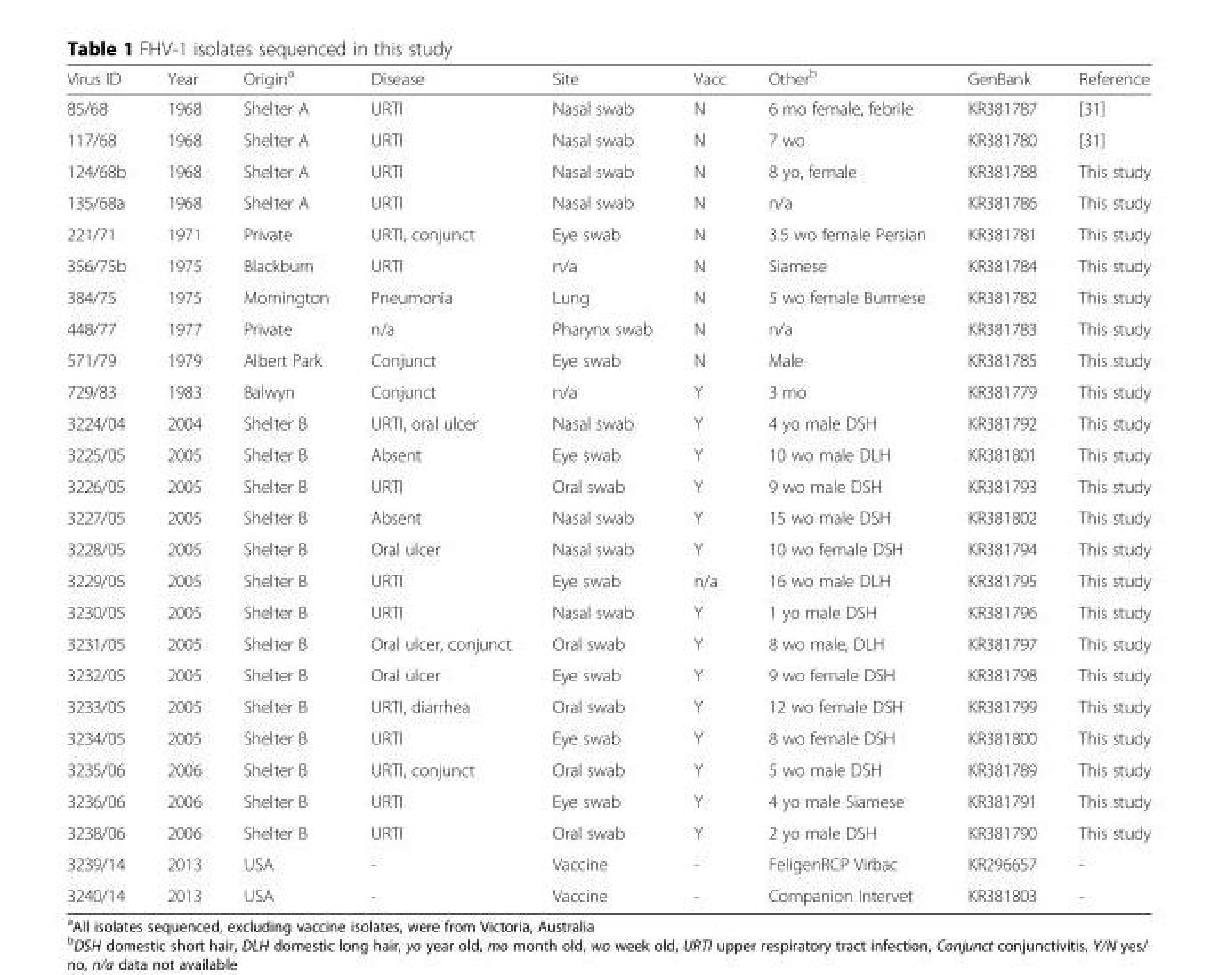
<table><thead><tr><td>Virus ID</td><td>Year</td><td>Origin<sup>a</sup></td><td>Disease</td><td>Site</td><td>Vacc</td><td>Other<sup>b</sup></td><td>GenBank</td><td>Reference</td></tr></thead><tbody><tr><td>85/68</td><td>1968</td><td>Shelter A</td><td>URTI</td><td>Nasal swab</td><td>N</td><td>6 mo female, febrile</td><td>KR381787</td><td>[31]</td></tr><tr><td>117/68</td><td>1968</td><td>Shelter A</td><td>URTI</td><td>Nasal swab</td><td>N</td><td>7 wo</td><td>KR381780</td><td>[31]</td></tr><tr><td>124/68b</td><td>1968</td><td>Shelter A</td><td>URTI</td><td>Nasal swab</td><td>N</td><td>8 yo, female</td><td>KR381788</td><td>This study</td></tr><tr><td>135/68a</td><td>1968</td><td>Shelter A</td><td>URTI</td><td>Nasal swab</td><td>N</td><td>n/a</td><td>KR381786</td><td>This study</td></tr><tr><td>221/71</td><td>1971</td><td>Private</td><td>URTI, conjunct</td><td>Eye swab</td><td>N</td><td>3.5 wo female Persian</td><td>KR381781</td><td>This study</td></tr><tr><td>356/75b</td><td>1975</td><td>Blackburn</td><td>URTI</td><td>n/a</td><td>N</td><td>Siamese</td><td>KR381784</td><td>This study</td></tr><tr><td>384/75</td><td>1975</td><td>Mornington</td><td>Pneumonia</td><td>Lung</td><td>N</td><td>5 wo female Burmese</td><td>KR381782</td><td>This study</td></tr><tr><td>448/77</td><td>1977</td><td>Private</td><td>n/a</td><td>Pharynx swab</td><td>N</td><td>n/a</td><td>KR381783</td><td>This study</td></tr><tr><td>571/79</td><td>1979</td><td>Albert Park</td><td>Conjunct</td><td>Eye swab</td><td>N</td><td>Male</td><td>KR381785</td><td>This study</td></tr><tr><td>729/83</td><td>1983</td><td>Balwyn</td><td>Conjunct</td><td>n/a</td><td>Y</td><td>3 mo</td><td>KR381779</td><td>This study</td></tr><tr><td>3224/04</td><td>2004</td><td>Shelter B</td><td>URTI, oral ulcer</td><td>Nasal swab</td><td>Y</td><td>4 yo male DSH</td><td>KR381792</td><td>This study</td></tr><tr><td>3225/05</td><td>2005</td><td>Shelter B</td><td>Absent</td><td>Eye swab</td><td>Y</td><td>10 wo male DLH</td><td>KR381801</td><td>This study</td></tr><tr><td>3226/05</td><td>2005</td><td>Shelter B</td><td>URTI</td><td>Oral swab</td><td>Y</td><td>9 wo male DSH</td><td>KR381793</td><td>This study</td></tr><tr><td>3227/05</td><td>2005</td><td>Shelter B</td><td>Absent</td><td>Nasal swab</td><td>Y</td><td>15 wo male DSH</td><td>KR381802</td><td>This study</td></tr><tr><td>3228/05</td><td>2005</td><td>Shelter B</td><td>Oral ulcer</td><td>Nasal swab</td><td>Y</td><td>10 wo female DSH</td><td>KR381794</td><td>This study</td></tr><tr><td>3229/05</td><td>2005</td><td>Shelter B</td><td>URTI</td><td>Eye swab</td><td>n/a</td><td>16 wo male DLH</td><td>KR381795</td><td>This study</td></tr><tr><td>3230/05</td><td>2005</td><td>Shelter B</td><td>URTI</td><td>Nasal swab</td><td>Y</td><td>1 yo male DSH</td><td>KR381796</td><td>This study</td></tr><tr><td>3231/05</td><td>2005</td><td>Shelter B</td><td>Oral ulcer, conjunct</td><td>Oral swab</td><td>Y</td><td>8 wo male, DLH</td><td>KR381797</td><td>This study</td></tr><tr><td>3232/05</td><td>2005</td><td>Shelter B</td><td>Oral ulcer</td><td>Eye swab</td><td>Y</td><td>9 wo female DSH</td><td>KR381798</td><td>This study</td></tr><tr><td>3233/05</td><td>2005</td><td>Shelter B</td><td>URTI, diarrhea</td><td>Oral swab</td><td>Y</td><td>12 wo female DSH</td><td>KR381799</td><td>This study</td></tr><tr><td>3234/05</td><td>2005</td><td>Shelter B</td><td>URTI</td><td>Eye swab</td><td>Y</td><td>8 wo female DSH</td><td>KR381800</td><td>This study</td></tr><tr><td>3235/06</td><td>2006</td><td>Shelter B</td><td>URTI, conjunct</td><td>Oral swab</td><td>Y</td><td>5 wo male DSH</td><td>KR381789</td><td>This study</td></tr><tr><td>3236/06</td><td>2006</td><td>Shelter B</td><td>URTI</td><td>Eye swab</td><td>Y</td><td>4 yo male Siamese</td><td>KR381791</td><td>This study</td></tr><tr><td>3238/06</td><td>2006</td><td>Shelter B</td><td>URTI</td><td>Oral swab</td><td>Y</td><td>2 yo male DSH</td><td>KR381790</td><td>This study</td></tr><tr><td>3239/14</td><td>2013</td><td>USA</td><td>-</td><td>Vaccine</td><td>-</td><td>FeligenRCP Virbac</td><td>KR296657</td><td>-</td></tr><tr><td>3240/14</td><td>2013</td><td>USA</td><td>-</td><td>Vaccine</td><td>-</td><td>Companion Intervet</td><td>KR381803</td><td>-</td></tr></tbody></table>